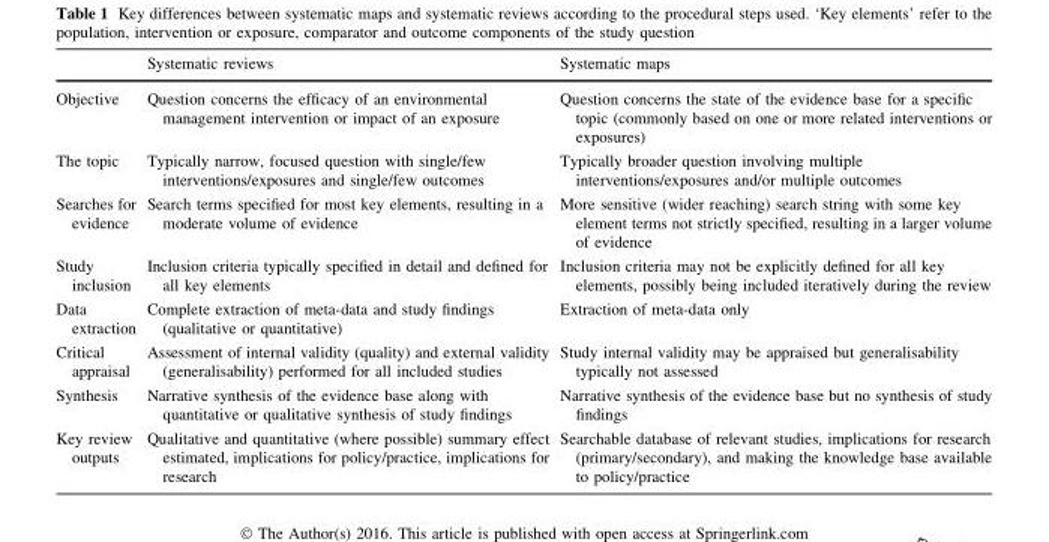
<table><thead><tr><td></td><td>Systematic reviews</td><td>Systematic maps</td></tr></thead><tbody><tr><td>Objective</td><td>Question concerns the efficacy of an environmental management intervention or impact of an exposure</td><td>Question concerns the state of the evidence base for a specific topic (commonly based on one or more related interventions or exposures)</td></tr><tr><td>The topic</td><td>Typically narrow, focused question with single/few interventions/exposures and single/few outcomes</td><td>Typically broader question involving multiple interventions/exposures and/or multiple outcomes</td></tr><tr><td>Searches for evidence</td><td>Search terms specified for most key elements, resulting in a moderate volume of evidence</td><td>More sensitive (wider reaching) search string with some key element terms not strictly specified, resulting in a larger volume of evidence</td></tr><tr><td>Study inclusion</td><td>Inclusion criteria typically specified in detail and defined for all key elements</td><td>Inclusion criteria may not be explicitly defined for all key elements, possibly being included iteratively during the review</td></tr><tr><td>Data extraction</td><td>Complete extraction of meta-data and study findings (qualitative or quantitative)</td><td>Extraction of meta-data only</td></tr><tr><td>Critical appraisal</td><td>Assessment of internal validity (quality) and external validity (generalisability) performed for all included studies</td><td>Study internal validity may be appraised but generalisability typically not assessed</td></tr><tr><td>Synthesis</td><td>Narrative synthesis of the evidence base along with quantitative or qualitative synthesis of study findings</td><td>Narrative synthesis of the evidence base but no synthesis of study findings</td></tr><tr><td>Key review outputs</td><td>Qualitative and quantitative (where possible) summary effect estimated, implications for policy/practice, implications for research</td><td>Searchable database of relevant studies, implications for research (primary/secondary), and making the knowledge base available to policy/practice</td></tr></tbody></table>